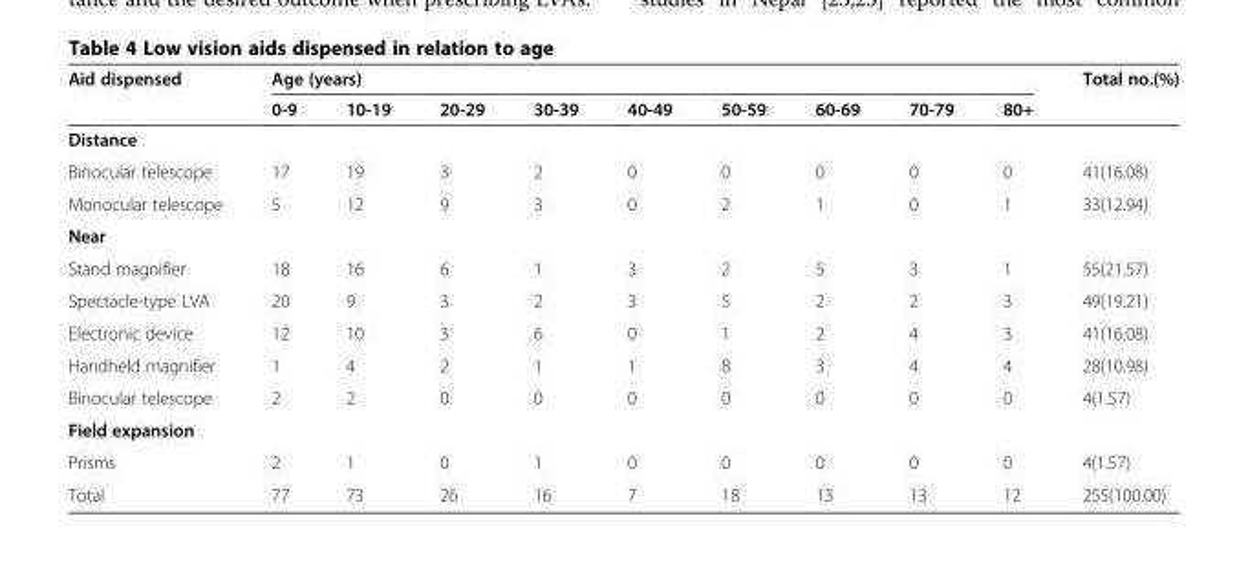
<table><thead><tr><td rowspan="2">Aid dispensed</td><td colspan="9">Age (years)</td><td rowspan="2">Total no.(%)</td></tr><tr><td>0-9</td><td>10-19</td><td>20-29</td><td>30-39</td><td>40-49</td><td>50-59</td><td>60-69</td><td>70-79</td><td>80+</td></tr></thead><tbody><tr><td colspan="11">Distance</td></tr><tr><td>Binocular telescope</td><td>17</td><td>19</td><td>3</td><td>2</td><td>0</td><td>0</td><td>0</td><td>0</td><td>0</td><td>41(16.08)</td></tr><tr><td>Monocular telescope</td><td>5</td><td>12</td><td>9</td><td>3</td><td>0</td><td>2</td><td>1</td><td>0</td><td>1</td><td>33(12.94)</td></tr><tr><td colspan="11">Near</td></tr><tr><td>Stand magnifier</td><td>18</td><td>16</td><td>6</td><td>1</td><td>3</td><td>2</td><td>5</td><td>3</td><td>1</td><td>55(21.57)</td></tr><tr><td>Spectacle-type LVA</td><td>20</td><td>9</td><td>3</td><td>2</td><td>3</td><td>5</td><td>2</td><td>2</td><td>3</td><td>49(19.21)</td></tr><tr><td>Electronic device</td><td>12</td><td>10</td><td>3</td><td>6</td><td>0</td><td>1</td><td>2</td><td>4</td><td>3</td><td>41(16.08)</td></tr><tr><td>Handheld magnifier</td><td>1</td><td>4</td><td>2</td><td>1</td><td>1</td><td>8</td><td>3</td><td>4</td><td>4</td><td>28(10.98)</td></tr><tr><td>Binocular telescope</td><td>2</td><td>2</td><td>0</td><td>0</td><td>0</td><td>0</td><td>0</td><td>0</td><td>0</td><td>4(1.57)</td></tr><tr><td colspan="11">Field expansion</td></tr><tr><td>Prisms</td><td>2</td><td>1</td><td>0</td><td>1</td><td>0</td><td>0</td><td>0</td><td>0</td><td>0</td><td>4(1.57)</td></tr><tr><td>Total</td><td>77</td><td>73</td><td>26</td><td>16</td><td>7</td><td>18</td><td>13</td><td>13</td><td>12</td><td>255(100.00)</td></tr></tbody></table>